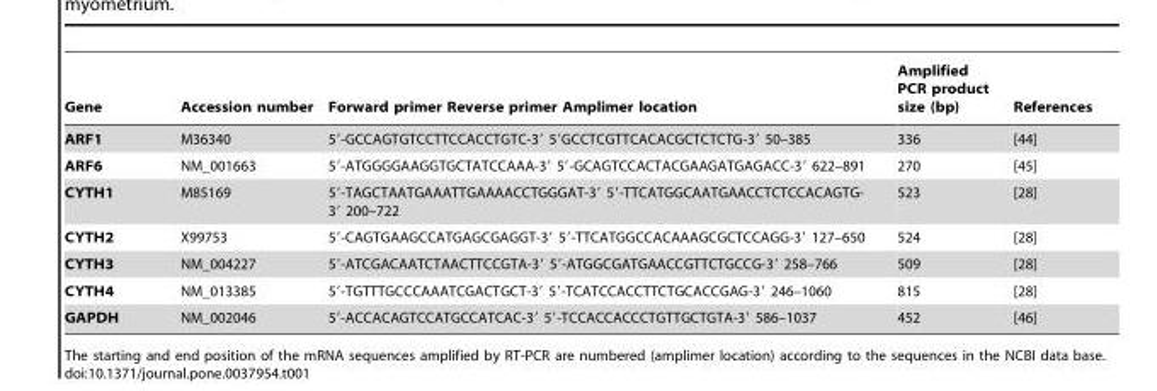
<table><thead><tr><td>Gene</td><td>Accession number</td><td>Forward primer Reverse primer Amplimer location</td><td>Amplified PCR product size (bp)</td><td>References</td></tr></thead><tbody><tr><td>ARF1</td><td>M36340</td><td>5′-GCCAGTGTCCTTCCACCTGTC-3′ 5′GCCTCGTTCACACGCTCTCTG-3′ 50–385</td><td>336</td><td>[44]</td></tr><tr><td>ARF6</td><td>NM_001663</td><td>5′-ATGGGGAAGGTGCTATCCAAA-3′ 5′-GCAGTCCACTACGAAGATGAGACC-3′ 622–891</td><td>270</td><td>[45]</td></tr><tr><td>CYTH1</td><td>M85169</td><td>5′-TAGCTAATGAAATTGAAAACCTGGGAT-3′ 5′-TTCATGGCAATGAACCTCTCCACAGTG- 3′ 200–722</td><td>523</td><td>[28]</td></tr><tr><td>CYTH2</td><td>X99753</td><td>5′-CAGTGAAGCCATGAGCGAGGT-3′ 5′-TTCATGGCCACAAAGCGCTCCAGG-3′ 127–650</td><td>524</td><td>[28]</td></tr><tr><td>CYTH3</td><td>NM_004227</td><td>5′-ATCGACAATCTAACTTCCGTA-3′ 5′-ATGGCGATGAACCGTTCTGCCG-3′ 258–766</td><td>509</td><td>[28]</td></tr><tr><td>CYTH4</td><td>NM_013385</td><td>5′-TGTTTGCCCAAATCGACTGCT-3′ 5′-TCATCCACCTTCTGCACCGAG-3′ 246–1060</td><td>815</td><td>[28]</td></tr><tr><td>GAPDH</td><td>NM_002046</td><td>5′-ACCACAGTCCATGCCATCAC-3′ 5′-TCCACCACCCTGTTGCTGTA-3′ 586–1037</td><td>452</td><td>[46]</td></tr></tbody></table>